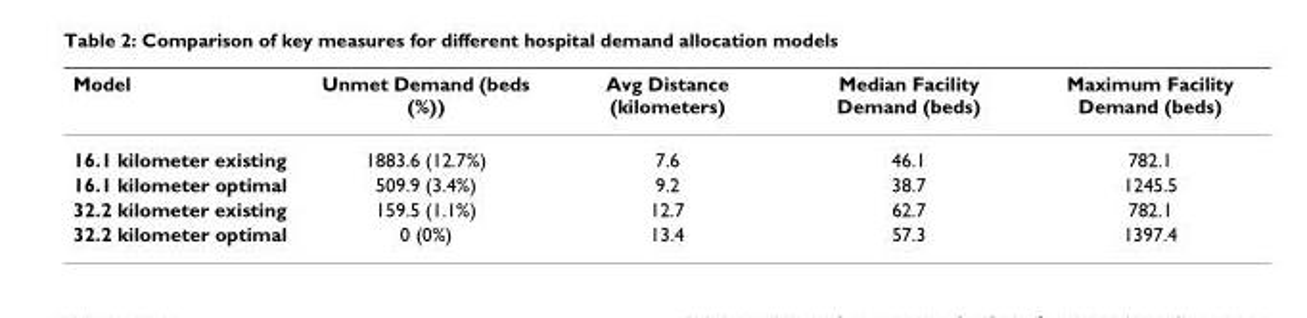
<table><thead><tr><td>Model</td><td>Unmet Demand (beds (%))</td><td>Avg Distance (kilometers)</td><td>Median Facility Demand (beds)</td><td>Maximum Facility Demand (beds)</td></tr></thead><tbody><tr><td>16.1 kilometer existing</td><td>1883.6 (12.7%)</td><td>7.6</td><td>46.1</td><td>782.1</td></tr><tr><td>16.1 kilometer optimal</td><td>509.9 (3.4%)</td><td>9.2</td><td>38.7</td><td>1245.5</td></tr><tr><td>32.2 kilometer existing</td><td>159.5 (1.1%)</td><td>12.7</td><td>62.7</td><td>782.1</td></tr><tr><td>32.2 kilometer optimal</td><td>0 (0%)</td><td>13.4</td><td>57.3</td><td>1397.4</td></tr></tbody></table>